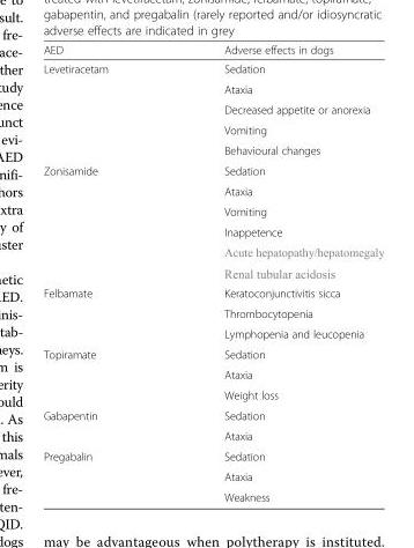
<table><thead><tr><td>AED</td><td>Adverse effects in dogs</td></tr></thead><tbody><tr><td rowspan="5">Levetiracetam</td><td>Sedation</td></tr><tr><td>Ataxia</td></tr><tr><td>Decreased appetite or anorexia</td></tr><tr><td>Vomiting</td></tr><tr><td>Behavioural changes</td></tr><tr><td rowspan="4">Zonisamide</td><td>Sedation</td></tr><tr><td>Ataxia</td></tr><tr><td>Vomiting</td></tr><tr><td>Inappetence</td></tr><tr><td rowspan="3">Felbamate</td><td>Keratoconjunctivitis sicca</td></tr><tr><td>Thrombocytopenia</td></tr><tr><td>Lymphopenia and leucopenia</td></tr><tr><td rowspan="3">Topiramate</td><td>Sedation</td></tr><tr><td>Ataxia</td></tr><tr><td>Weight loss</td></tr><tr><td rowspan="2">Gabapentin</td><td>Sedation</td></tr><tr><td>Ataxia</td></tr><tr><td rowspan="3">Pregabalin</td><td>Sedation</td></tr><tr><td>Ataxia</td></tr><tr><td>Weakness</td></tr></tbody></table>